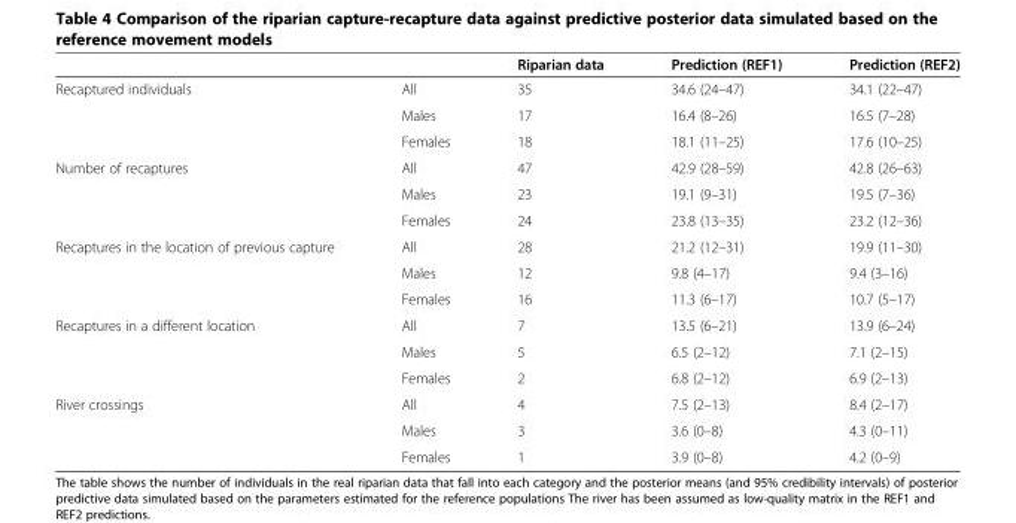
<table><thead><tr><td></td><td></td><td>Riparian data</td><td>Prediction (REF1)</td><td>Prediction (REF2)</td></tr></thead><tbody><tr><td rowspan="3">Recaptured individuals</td><td>All</td><td>35</td><td>34.6 (24–47)</td><td>34.1 (22–47)</td></tr><tr><td>Males</td><td>17</td><td>16.4 (8–26)</td><td>16.5 (7–28)</td></tr><tr><td>Females</td><td>18</td><td>18.1 (11–25)</td><td>17.6 (10–25)</td></tr><tr><td rowspan="3">Number of recaptures</td><td>All</td><td>47</td><td>42.9 (28–59)</td><td>42.8 (26–63)</td></tr><tr><td>Males</td><td>23</td><td>19.1 (9–31)</td><td>19.5 (7–36)</td></tr><tr><td>Females</td><td>24</td><td>23.8 (13–35)</td><td>23.2 (12–36)</td></tr><tr><td rowspan="3">Recaptures in the location of previous capture</td><td>All</td><td>28</td><td>21.2 (12–31)</td><td>19.9 (11–30)</td></tr><tr><td>Males</td><td>12</td><td>9.8 (4–17)</td><td>9.4 (3–16)</td></tr><tr><td>Females</td><td>16</td><td>11.3 (6–17)</td><td>10.7 (5–17)</td></tr><tr><td rowspan="3">Recaptures in a different location</td><td>All</td><td>7</td><td>13.5 (6–21)</td><td>13.9 (6–24)</td></tr><tr><td>Males</td><td>5</td><td>6.5 (2–12)</td><td>7.1 (2–15)</td></tr><tr><td>Females</td><td>2</td><td>6.8 (2–12)</td><td>6.9 (2–13)</td></tr><tr><td rowspan="3">River crossings</td><td>All</td><td>4</td><td>7.5 (2–13)</td><td>8.4 (2–17)</td></tr><tr><td>Males</td><td>3</td><td>3.6 (0–8)</td><td>4.3 (0–11)</td></tr><tr><td>Females</td><td>1</td><td>3.9 (0–8)</td><td>4.2 (0–9)</td></tr></tbody></table>